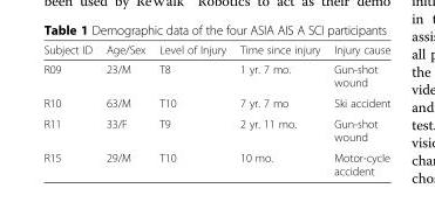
<table><thead><tr><td>Subject ID</td><td>Age/Sex</td><td>Level of Injury</td><td>Time since injury</td><td>Injury cause</td></tr></thead><tbody><tr><td>R09</td><td>23/M</td><td>T8</td><td>1 yr. 7 mo.</td><td>Gun-shot wound</td></tr><tr><td>R10</td><td>63/M</td><td>T10</td><td>7 yr. 7 mo</td><td>Ski accident</td></tr><tr><td>R11</td><td>33/F</td><td>T9</td><td>2 yr. 11 mo.</td><td>Gun-shot wound</td></tr><tr><td>R15</td><td>29/M</td><td>T10</td><td>10 mo.</td><td>Motor-cycle accident</td></tr></tbody></table>